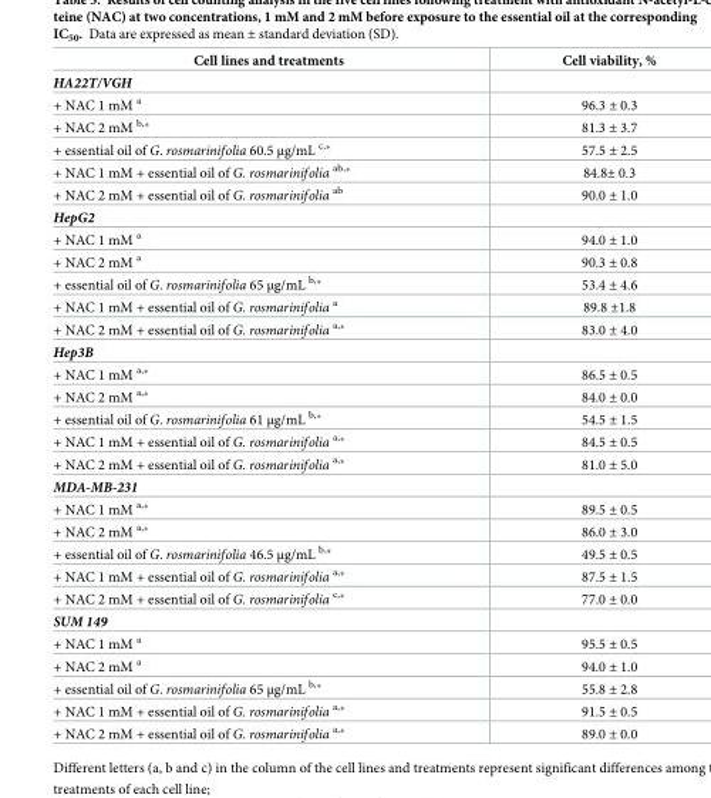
<table><thead><tr><td>Cell lines and treatments</td><td>Cell viability, %</td></tr></thead><tbody><tr><td colspan="2">HA22T/VGH</td></tr><tr><td>+ NAC 1 mM <sup>a</sup></td><td>96.3 ± 0.3</td></tr><tr><td>+ NAC 2 mM <sup>b,</sup>*</td><td>81.3 ± 3.7</td></tr><tr><td>+ essential oil of G. rosmarinifolia 60.5 μg/mL <sup>c,</sup>*</td><td>57.5 ± 2.5</td></tr><tr><td>+ NAC 1 mM + essential oil of G. rosmarinifolia <sup>ab,</sup>*</td><td>84.8± 0.3</td></tr><tr><td>+ NAC 2 mM + essential oil of G. rosmarinifolia <sup>ab</sup></td><td>90.0 ± 1.0</td></tr><tr><td colspan="2">HepG2</td></tr><tr><td>+ NAC 1 mM <sup>a</sup></td><td>94.0 ± 1.0</td></tr><tr><td>+ NAC 2 mM <sup>a</sup></td><td>90.3 ± 0.8</td></tr><tr><td>+ essential oil of G. rosmarinifolia 65 μg/mL <sup>b,</sup>*</td><td>53.4 ± 4.6</td></tr><tr><td>+ NAC 1 mM + essential oil of G. rosmarinifolia <sup>a</sup></td><td>89.8 ±1.8</td></tr><tr><td>+ NAC 2 mM + essential oil of G. rosmarinifolia <sup>a,</sup>*</td><td>83.0 ± 4.0</td></tr><tr><td colspan="2">Hep3B</td></tr><tr><td>+ NAC 1 mM <sup>a,</sup>*</td><td>86.5 ± 0.5</td></tr><tr><td>+ NAC 2 mM <sup>a,</sup>*</td><td>84.0 ± 0.0</td></tr><tr><td>+ essential oil of G. rosmarinifolia 61 μg/mL <sup>b,</sup>*</td><td>54.5 ± 1.5</td></tr><tr><td>+ NAC 1 mM + essential oil of G. rosmarinifolia <sup>a,</sup>*</td><td>84.5 ± 0.5</td></tr><tr><td>+ NAC 2 mM + essential oil of G. rosmarinifolia <sup>a,</sup>*</td><td>81.0 ± 5.0</td></tr><tr><td colspan="2">MDA-MB-231</td></tr><tr><td>+ NAC 1 mM <sup>a,</sup>*</td><td>89.5 ± 0.5</td></tr><tr><td>+ NAC 2 mM <sup>a,</sup>*</td><td>86.0 ± 3.0</td></tr><tr><td>+ essential oil of G. rosmarinifolia 46.5 μg/mL <sup>b,</sup>*</td><td>49.5 ± 0.5</td></tr><tr><td>+ NAC 1 mM + essential oil of G. rosmarinifolia <sup>a,</sup>*</td><td>87.5 ± 1.5</td></tr><tr><td>+ NAC 2 mM + essential oil of G. rosmarinifolia <sup>c,</sup>*</td><td>77.0 ± 0.0</td></tr><tr><td colspan="2">SUM 149</td></tr><tr><td>+ NAC 1 mM <sup>a</sup></td><td>95.5 ± 0.5</td></tr><tr><td>+ NAC 2 mM <sup>a</sup></td><td>94.0 ± 1.0</td></tr><tr><td>+ essential oil of G. rosmarinifolia 65 μg/mL <sup>b,</sup>*</td><td>55.8 ± 2.8</td></tr><tr><td>+ NAC 1 mM + essential oil of G. rosmarinifolia <sup>a,</sup>*</td><td>91.5 ± 0.5</td></tr><tr><td>+ NAC 2 mM + essential oil of G. rosmarinifolia <sup>a,</sup>*</td><td>89.0 ± 0.0</td></tr></tbody></table>